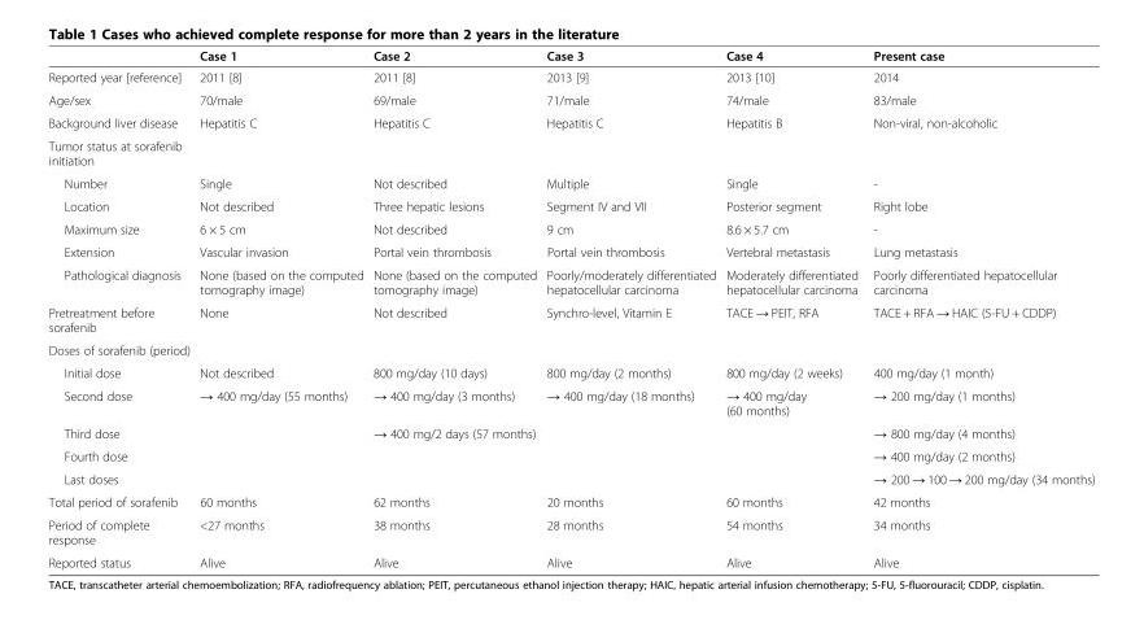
<table><thead><tr><td></td><td>Case 1</td><td>Case 2</td><td>Case 3</td><td>Case 4</td><td>Present case</td></tr></thead><tbody><tr><td>Reported year [reference]</td><td>2011 [8]</td><td>2011 [8]</td><td>2013 [9]</td><td>2013 [10]</td><td>2014</td></tr><tr><td>Age/sex</td><td>70/male</td><td>69/male</td><td>71/male</td><td>74/male</td><td>83/male</td></tr><tr><td>Background liver disease</td><td>Hepatitis C</td><td>Hepatitis C</td><td>Hepatitis C</td><td>Hepatitis B</td><td>Non-viral, non-alcoholic</td></tr><tr><td colspan="6">Tumor status at sorafenib initiation</td></tr><tr><td>Number</td><td>Single</td><td>Not described</td><td>Multiple</td><td>Single</td><td>-</td></tr><tr><td>Location</td><td>Not described</td><td>Three hepatic lesions</td><td>Segment IV and VII</td><td>Posterior segment</td><td>Right lobe</td></tr><tr><td>Maximum size</td><td>6 × 5 cm</td><td>Not described</td><td>9 cm</td><td>8.6 × 5.7 cm</td><td>-</td></tr><tr><td>Extension</td><td>Vascular invasion</td><td>Portal vein thrombosis</td><td>Portal vein thrombosis</td><td>Vertebral metastasis</td><td>Lung metastasis</td></tr><tr><td>Pathological diagnosis</td><td>None (based on the computed tomography image)</td><td>None (based on the computed tomography image)</td><td>Poorly/moderately differentiated hepatocellular carcinoma</td><td>Moderately differentiated hepatocellular carcinoma</td><td>Poorly differentiated hepatocellular carcinoma</td></tr><tr><td>Pretreatment before sorafenib</td><td>None</td><td>Not described</td><td>Synchro-level, Vitamin E</td><td>TACE → PEIT, RFA</td><td>TACE + RFA → HAIC (5-FU + CDDP)</td></tr><tr><td colspan="6">Doses of sorafenib (period)</td></tr><tr><td>Initial dose</td><td>Not described</td><td>800 mg/day (10 days)</td><td>800 mg/day (2 months)</td><td>800 mg/day (2 weeks)</td><td>400 mg/day (1 month)</td></tr><tr><td>Second dose</td><td>→ 400 mg/day (55 months)</td><td>→ 400 mg/day (3 months)</td><td>→ 400 mg/day (18 months)</td><td>→ 400 mg/day (60 months)</td><td>→ 200 mg/day (1 months)</td></tr><tr><td>Third dose</td><td></td><td>→ 400 mg/2 days (57 months)</td><td></td><td></td><td>→ 800 mg/day (4 months)</td></tr><tr><td>Fourth dose</td><td></td><td></td><td></td><td></td><td>→ 400 mg/day (2 months)</td></tr><tr><td>Last doses</td><td></td><td></td><td></td><td></td><td>→ 200 → 100 → 200 mg/day (34 months)</td></tr><tr><td>Total period of sorafenib</td><td>60 months</td><td>62 months</td><td>20 months</td><td>60 months</td><td>42 months</td></tr><tr><td>Period of complete response</td><td>&lt;27 months</td><td>38 months</td><td>28 months</td><td>54 months</td><td>34 months</td></tr><tr><td>Reported status</td><td>Alive</td><td>Alive</td><td>Alive</td><td>Alive</td><td>Alive</td></tr></tbody></table>